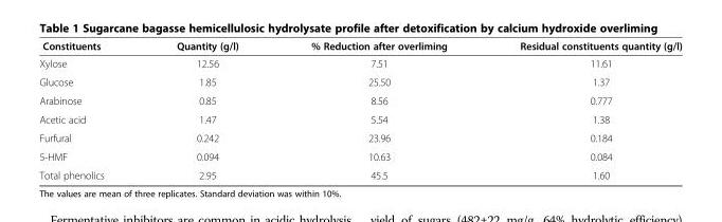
<table><thead><tr><td>Constituents</td><td>Quantity (g/l)</td><td>% Reduction after overliming</td><td>Residual constituents quantity (g/l)</td></tr></thead><tbody><tr><td>Xylose</td><td>12.56</td><td>7.51</td><td>11.61</td></tr><tr><td>Glucose</td><td>1.85</td><td>25.50</td><td>1.37</td></tr><tr><td>Arabinose</td><td>0.85</td><td>8.56</td><td>0.777</td></tr><tr><td>Acetic acid</td><td>1.47</td><td>5.54</td><td>1.38</td></tr><tr><td>Furfural</td><td>0.242</td><td>23.96</td><td>0.184</td></tr><tr><td>5-HMF</td><td>0.094</td><td>10.63</td><td>0.084</td></tr><tr><td>Total phenolics</td><td>2.95</td><td>45.5</td><td>1.60</td></tr></tbody></table>